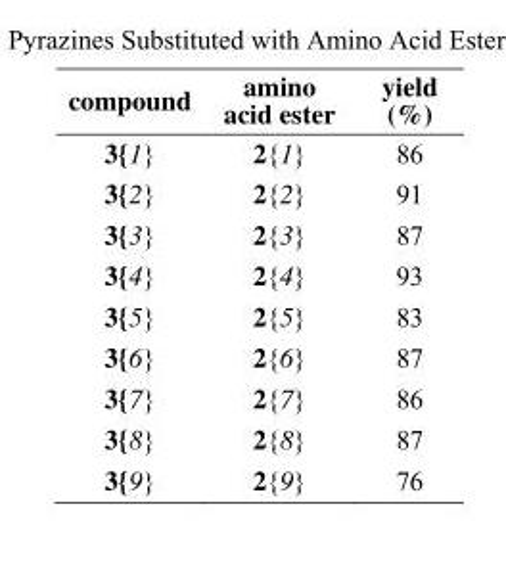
<table><thead><tr><td>compound</td><td>amino acid ester</td><td>yield (%)</td></tr></thead><tbody><tr><td>3{1}</td><td>2{1}</td><td>86</td></tr><tr><td>3{2}</td><td>2{2}</td><td>91</td></tr><tr><td>3{3}</td><td>2{3}</td><td>87</td></tr><tr><td>3{4}</td><td>2{4}</td><td>93</td></tr><tr><td>3{5}</td><td>2{5}</td><td>83</td></tr><tr><td>3{6}</td><td>2{6}</td><td>87</td></tr><tr><td>3{7}</td><td>2{7}</td><td>86</td></tr><tr><td>3{8}</td><td>2{8}</td><td>87</td></tr><tr><td>3{9}</td><td>2{9}</td><td>76</td></tr></tbody></table>